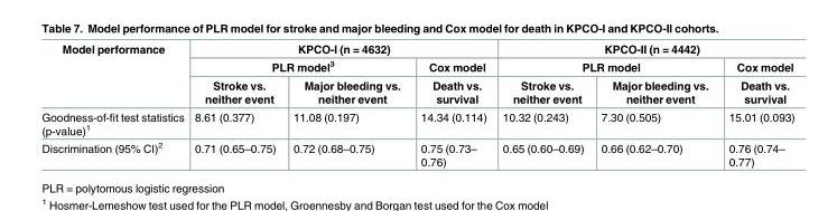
<table><thead><tr><td rowspan="3">Model performance</td><td colspan="3">KPCO-I (n = 4632)</td><td colspan="3">KPCO-II (n = 4442)</td></tr><tr><td colspan="2">PLR model<sup>3</sup></td><td rowspan="2">Cox model Death vs. survival</td><td colspan="2">PLR model</td><td rowspan="2">Cox model Death vs. survival</td></tr><tr><td>Stroke vs. neither event</td><td>Major bleeding vs. neither event</td><td>Stroke vs. neither event</td><td>Major bleeding vs. neither event</td></tr></thead><tbody><tr><td>Goodness-of-fit test statistics (p-value)<sup>1</sup></td><td>8.61 (0.377)</td><td>11.08 (0.197)</td><td>14.34 (0.114)</td><td>10.32 (0.243)</td><td>7.30 (0.505)</td><td>15.01 (0.093)</td></tr><tr><td>Discrimination (95% CI)<sup>2</sup></td><td>0.71 (0.65–0.75)</td><td>0.72 (0.68–0.75)</td><td>0.75 (0.73– 0.76)</td><td>0.65 (0.60–0.69)</td><td>0.66 (0.62–0.70)</td><td>0.76 (0.74– 0.77)</td></tr></tbody></table>